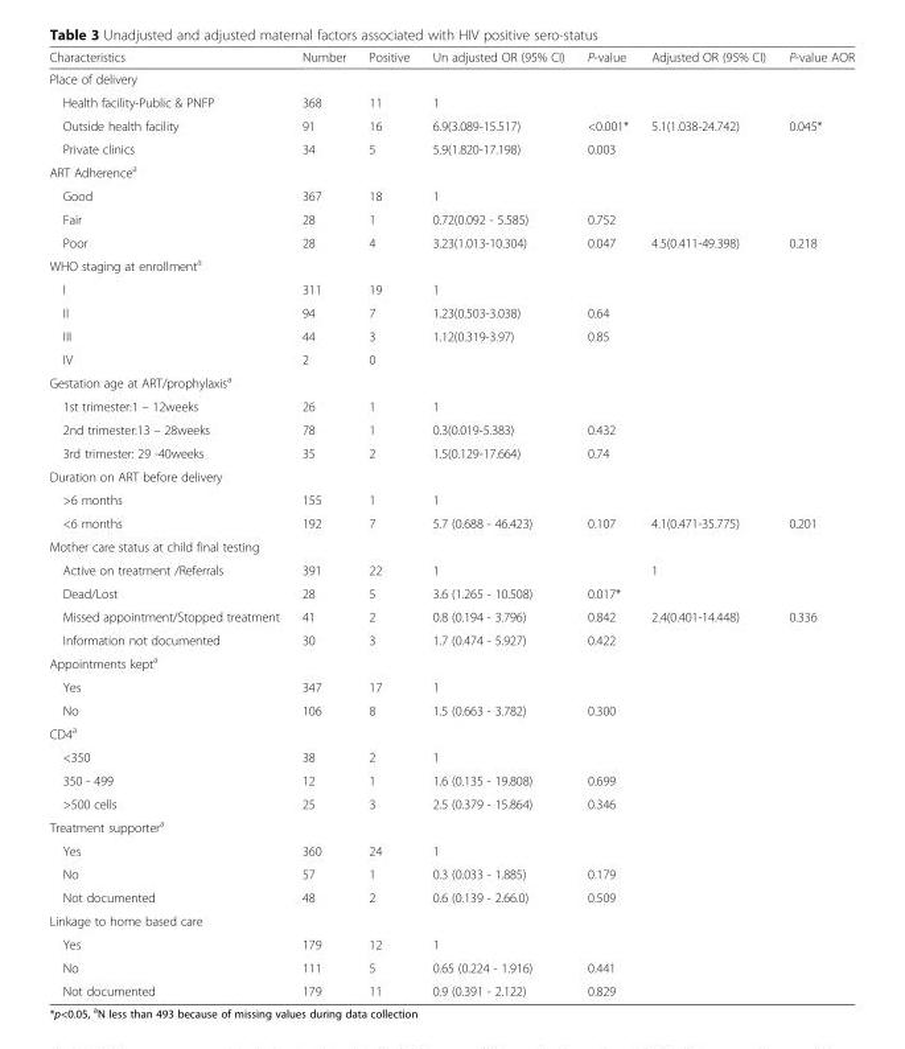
<table><thead><tr><td>Characteristics</td><td>Number</td><td>Positive</td><td>Un adjusted OR (95% CI)</td><td>P-value</td><td>Adjusted OR (95% CI)</td><td>P-value AOR</td></tr></thead><tbody><tr><td colspan="7">Place of delivery</td></tr><tr><td>Health facility-Public &amp; PNFP</td><td>368</td><td>11</td><td>1</td><td></td><td></td><td></td></tr><tr><td>Outside health facility</td><td>91</td><td>16</td><td>6.9(3.089-15.517)</td><td>&lt;0.001*</td><td>5.1(1.038-24.742)</td><td>0.045*</td></tr><tr><td>Private clinics</td><td>34</td><td>5</td><td>5.9(1.820-17.198)</td><td>0.003</td><td></td><td></td></tr><tr><td colspan="7">ART Adherence<sup>a</sup></td></tr><tr><td>Good</td><td>367</td><td>18</td><td>1</td><td></td><td></td><td></td></tr><tr><td>Fair</td><td>28</td><td>1</td><td>0.72(0.092 - 5.585)</td><td>0.752</td><td></td><td></td></tr><tr><td>Poor</td><td>28</td><td>4</td><td>3.23(1.013-10.304)</td><td>0.047</td><td>4.5(0.411-49.398)</td><td>0.218</td></tr><tr><td colspan="7">WHO staging at enrollment<sup>a</sup></td></tr><tr><td>I</td><td>311</td><td>19</td><td>1</td><td></td><td></td><td></td></tr><tr><td>II</td><td>94</td><td>7</td><td>1.23(0.503-3.038)</td><td>0.64</td><td></td><td></td></tr><tr><td>III</td><td>44</td><td>3</td><td>1.12(0.319-3.97)</td><td>0.85</td><td></td><td></td></tr><tr><td>IV</td><td>2</td><td>0</td><td></td><td></td><td></td><td></td></tr><tr><td colspan="7">Gestation age at ART/prophylaxis<sup>a</sup></td></tr><tr><td>1st trimester:1 – 12weeks</td><td>26</td><td>1</td><td>1</td><td></td><td></td><td></td></tr><tr><td>2nd trimester:13 – 28weeks</td><td>78</td><td>1</td><td>0.3(0.019-5.383)</td><td>0.432</td><td></td><td></td></tr><tr><td>3rd trimester: 29 -40weeks</td><td>35</td><td>2</td><td>1.5(0.129-17.664)</td><td>0.74</td><td></td><td></td></tr><tr><td colspan="7">Duration on ART before delivery</td></tr><tr><td>&gt;6 months</td><td>155</td><td>1</td><td>1</td><td></td><td></td><td></td></tr><tr><td>&lt;6 months</td><td>192</td><td>7</td><td>5.7 (0.688 - 46.423)</td><td>0.107</td><td>4.1(0.471-35.775)</td><td>0.201</td></tr><tr><td colspan="7">Mother care status at child final testing</td></tr><tr><td>Active on treatment /Referrals</td><td>391</td><td>22</td><td>1</td><td></td><td>1</td><td></td></tr><tr><td>Dead/Lost</td><td>28</td><td>5</td><td>3.6 (1.265 - 10.508)</td><td>0.017*</td><td></td><td></td></tr><tr><td>Missed appointment/Stopped treatment</td><td>41</td><td>2</td><td>0.8 (0.194 - 3.796)</td><td>0.842</td><td>2.4(0.401-14.448)</td><td>0.336</td></tr><tr><td>Information not documented</td><td>30</td><td>3</td><td>1.7 (0.474 - 5.927)</td><td>0.422</td><td></td><td></td></tr><tr><td colspan="7">Appointments kept<sup>a</sup></td></tr><tr><td>Yes</td><td>347</td><td>17</td><td>1</td><td></td><td></td><td></td></tr><tr><td>No</td><td>106</td><td>8</td><td>1.5 (0.663 - 3.782)</td><td>0.300</td><td></td><td></td></tr><tr><td colspan="7">CD4<sup>a</sup></td></tr><tr><td>&lt;350</td><td>38</td><td>2</td><td>1</td><td></td><td></td><td></td></tr><tr><td>350 - 499</td><td>12</td><td>1</td><td>1.6 (0.135 - 19.808)</td><td>0.699</td><td></td><td></td></tr><tr><td>&gt;500 cells</td><td>25</td><td>3</td><td>2.5 (0.379 - 15.864)</td><td>0.346</td><td></td><td></td></tr><tr><td colspan="7">Treatment supporter<sup>a</sup></td></tr><tr><td>Yes</td><td>360</td><td>24</td><td>1</td><td></td><td></td><td></td></tr><tr><td>No</td><td>57</td><td>1</td><td>0.3 (0.033 - 1.885)</td><td>0.179</td><td></td><td></td></tr><tr><td>Not documented</td><td>48</td><td>2</td><td>0.6 (0.139 - 2.66.0)</td><td>0.509</td><td></td><td></td></tr><tr><td colspan="7">Linkage to home based care</td></tr><tr><td>Yes</td><td>179</td><td>12</td><td>1</td><td></td><td></td><td></td></tr><tr><td>No</td><td>111</td><td>5</td><td>0.65 (0.224 - 1.916)</td><td>0.441</td><td></td><td></td></tr><tr><td>Not documented</td><td>179</td><td>11</td><td>0.9 (0.391 - 2.122)</td><td>0.829</td><td></td><td></td></tr></tbody></table>